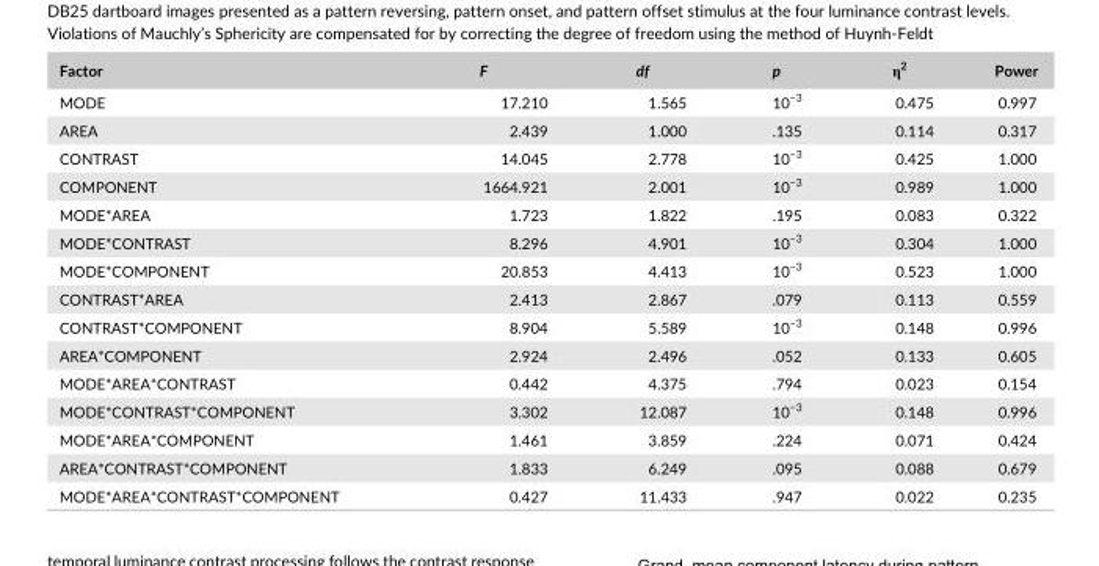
<table><thead><tr><td>Factor</td><td>F</td><td>df</td><td>p</td><td>η<sup>2</sup></td><td>Power</td></tr></thead><tbody><tr><td>MODE</td><td>17.210</td><td>1.565</td><td>10<sup>−3</sup></td><td>0.475</td><td>0.997</td></tr><tr><td>AREA</td><td>2.439</td><td>1.000</td><td>.135</td><td>0.114</td><td>0.317</td></tr><tr><td>CONTRAST</td><td>14.045</td><td>2.778</td><td>10<sup>−3</sup></td><td>0.425</td><td>1.000</td></tr><tr><td>COMPONENT</td><td>1664.921</td><td>2.001</td><td>10<sup>−3</sup></td><td>0.989</td><td>1.000</td></tr><tr><td>MODE*AREA</td><td>1.723</td><td>1.822</td><td>.195</td><td>0.083</td><td>0.322</td></tr><tr><td>MODE*CONTRAST</td><td>8.296</td><td>4.901</td><td>10<sup>−3</sup></td><td>0.304</td><td>1.000</td></tr><tr><td>MODE*COMPONENT</td><td>20.853</td><td>4.413</td><td>10<sup>−3</sup></td><td>0.523</td><td>1.000</td></tr><tr><td>CONTRAST*AREA</td><td>2.413</td><td>2.867</td><td>.079</td><td>0.113</td><td>0.559</td></tr><tr><td>CONTRAST*COMPONENT</td><td>8.904</td><td>5.589</td><td>10<sup>−3</sup></td><td>0.148</td><td>0.996</td></tr><tr><td>AREA*COMPONENT</td><td>2.924</td><td>2.496</td><td>.052</td><td>0.133</td><td>0.605</td></tr><tr><td>MODE*AREA*CONTRAST</td><td>0.442</td><td>4.375</td><td>.794</td><td>0.023</td><td>0.154</td></tr><tr><td>MODE*CONTRAST*COMPONENT</td><td>3.302</td><td>12.087</td><td>10<sup>−3</sup></td><td>0.148</td><td>0.996</td></tr><tr><td>MODE*AREA*COMPONENT</td><td>1.461</td><td>3.859</td><td>.224</td><td>0.071</td><td>0.424</td></tr><tr><td>AREA*CONTRAST*COMPONENT</td><td>1.833</td><td>6.249</td><td>.095</td><td>0.088</td><td>0.679</td></tr><tr><td>MODE*AREA*CONTRAST*COMPONENT</td><td>0.427</td><td>11.433</td><td>.947</td><td>0.022</td><td>0.235</td></tr></tbody></table>